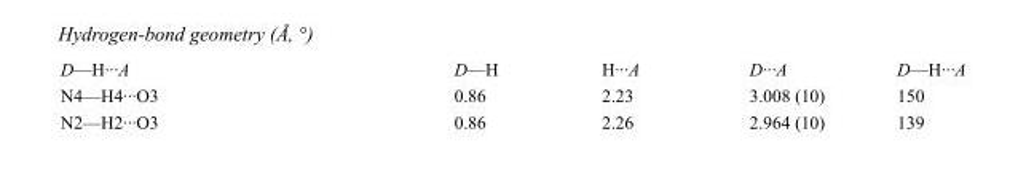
<table><tbody><tr><td>D—H···A</td><td>D—H</td><td>H···A</td><td>D···A</td><td>D—H···A</td></tr><tr><td>N4—H4···O3</td><td>0.86</td><td>2.23</td><td>3.008 (10)</td><td>150</td></tr><tr><td>N2—H2···O3</td><td>0.86</td><td>2.26</td><td>2.964 (10)</td><td>139</td></tr></tbody></table>